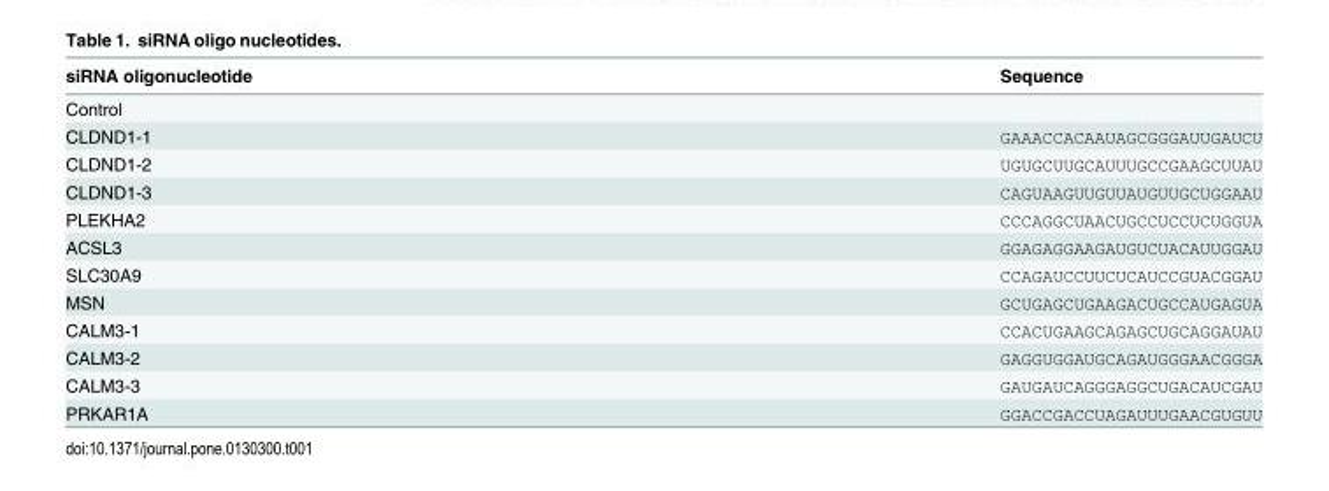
<table><thead><tr><td>siRNA oligonucleotide</td><td>Sequence</td></tr></thead><tbody><tr><td colspan="2">Control</td></tr><tr><td>CLDND1-1</td><td>GAAACCACAAUAGCGGGAUUGAUCU</td></tr><tr><td>CLDND1-2</td><td>UGUGCUUGCAUUUGCCGAAGCUUAU</td></tr><tr><td>CLDND1-3</td><td>CAGUAAGUUGUUAUGUUGCUGGAAU</td></tr><tr><td>PLEKHA2</td><td>CCCAGGCUAACUGCCUCCUCUGGUA</td></tr><tr><td>ACSL3</td><td>GGAGAGGAAGAUGUCUACAUUGGAU</td></tr><tr><td>SLC30A9</td><td>CCAGAUCCUUCUCAUCCGUACGGAU</td></tr><tr><td>MSN</td><td>GCUGAGCUGAAGACUGCCAUGAGUA</td></tr><tr><td>CALM3-1</td><td>CCACUGAAGCAGAGCUGCAGGAUAU</td></tr><tr><td>CALM3-2</td><td>GAGGUGGAUGCAGAUGGGAACGGGA</td></tr><tr><td>CALM3-3</td><td>GAUGAUCAGGGAGGCUGACAUCGAU</td></tr><tr><td>PRKAR1A</td><td>GGACCGACCUAGAUUUGAACGUGUU</td></tr></tbody></table>